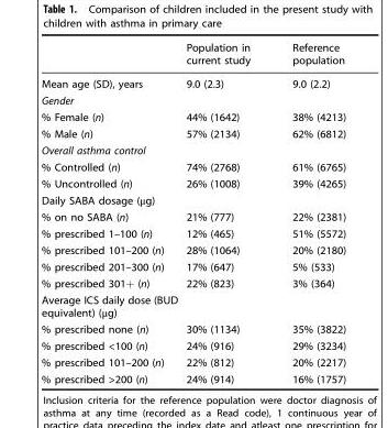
<table><thead><tr><td></td><td>Population in current study</td><td>Reference population</td></tr></thead><tbody><tr><td>Mean age (SD), years</td><td>9.0 (2.3)</td><td>9.0 (2.2)</td></tr><tr><td colspan="3">Gender</td></tr><tr><td>% Female (n)</td><td>44% (1642)</td><td>38% (4213)</td></tr><tr><td>% Male (n)</td><td>57% (2134)</td><td>62% (6812)</td></tr><tr><td colspan="3">Overall asthma control</td></tr><tr><td>% Controlled (n)</td><td>74% (2768)</td><td>61% (6765)</td></tr><tr><td>% Uncontrolled (n)</td><td>26% (1008)</td><td>39% (4265)</td></tr><tr><td colspan="3">Daily SABA dosage (μg)</td></tr><tr><td>% on no SABA (n)</td><td>21% (777)</td><td>22% (2381)</td></tr><tr><td>% prescribed 1–100 (n)</td><td>12% (465)</td><td>51% (5572)</td></tr><tr><td>% prescribed 101–200 (n)</td><td>28% (1064)</td><td>20% (2180)</td></tr><tr><td>% prescribed 201–300 (n)</td><td>17% (647)</td><td>5% (533)</td></tr><tr><td>% prescribed 301+ (n)</td><td>22% (823)</td><td>3% (364)</td></tr><tr><td colspan="3">Average ICS daily dose (BUD equivalent) (μg)</td></tr><tr><td>% prescribed none (n)</td><td>30% (1134)</td><td>35% (3822)</td></tr><tr><td>% prescribed &lt;100 (n)</td><td>24% (916)</td><td>29% (3234)</td></tr><tr><td>% prescribed 101–200 (n)</td><td>22% (812)</td><td>20% (2217)</td></tr><tr><td>% prescribed &gt;200 (n)</td><td>24% (914)</td><td>16% (1757)</td></tr></tbody></table>